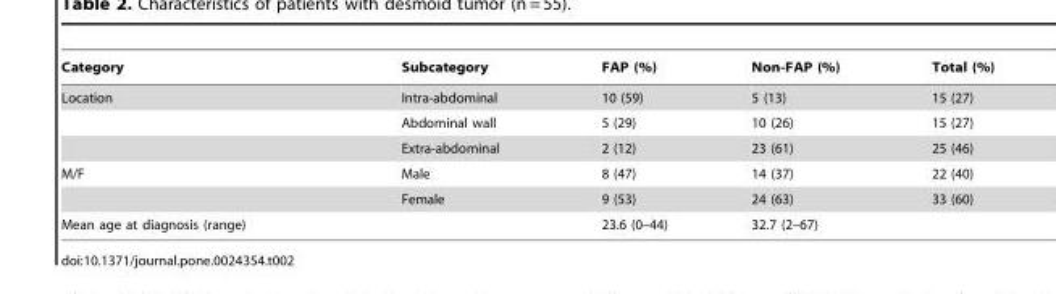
<table><thead><tr><td>Category</td><td>Subcategory</td><td>FAP (%)</td><td>Non-FAP (%)</td><td>Total (%)</td></tr></thead><tbody><tr><td rowspan="3">Location</td><td>Intra-abdominal</td><td>10 (59)</td><td>5 (13)</td><td>15 (27)</td></tr><tr><td>Abdominal wall</td><td>5 (29)</td><td>10 (26)</td><td>15 (27)</td></tr><tr><td>Extra-abdominal</td><td>2 (12)</td><td>23 (61)</td><td>25 (46)</td></tr><tr><td rowspan="2">M/F</td><td>Male</td><td>8 (47)</td><td>14 (37)</td><td>22 (40)</td></tr><tr><td>Female</td><td>9 (53)</td><td>24 (63)</td><td>33 (60)</td></tr><tr><td>Mean age at diagnosis (range)</td><td></td><td>23.6 (0–44)</td><td>32.7 (2–67)</td><td></td></tr></tbody></table>